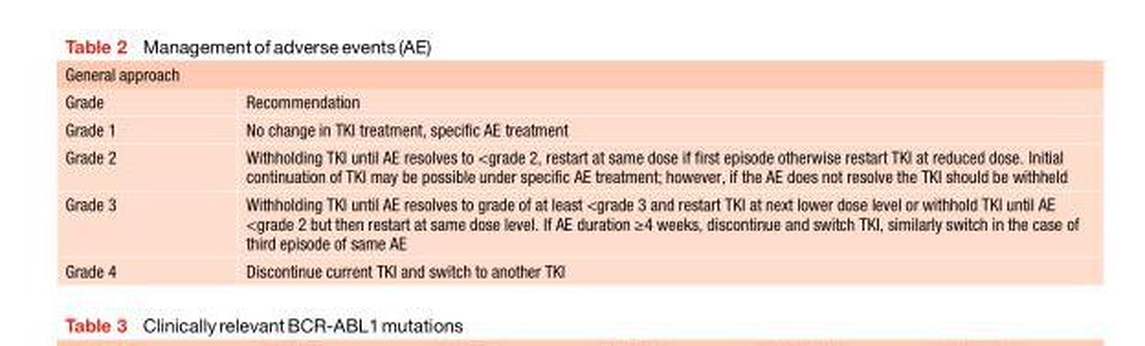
<table><thead><tr><td colspan="2">General approach</td></tr><tr><td>Grade</td><td>Recommendation</td></tr></thead><tbody><tr><td>Grade 1</td><td>No change in TKI treatment, specific AE treatment</td></tr><tr><td>Grade 2</td><td>Withholding TKI until AE resolves to &lt;grade 2, restart at same dose if first episode otherwise restart TKI at reduced dose. Initial continuation of TKI may be possible under specific AE treatment; however, if the AE does not resolve the TKI should be withheld</td></tr><tr><td>Grade 3</td><td>Withholding TKI until AE resolves to grade of at least &lt;grade 3 and restart TKI at next lower dose level or withhold TKI until AE &lt;grade 2 but then restart at same dose level. If AE duration ≥4 weeks, discontinue and switch TKI, similarly switch in the case of third episode of same AE</td></tr><tr><td>Grade 4</td><td>Discontinue current TKI and switch to another TKI</td></tr></tbody></table>